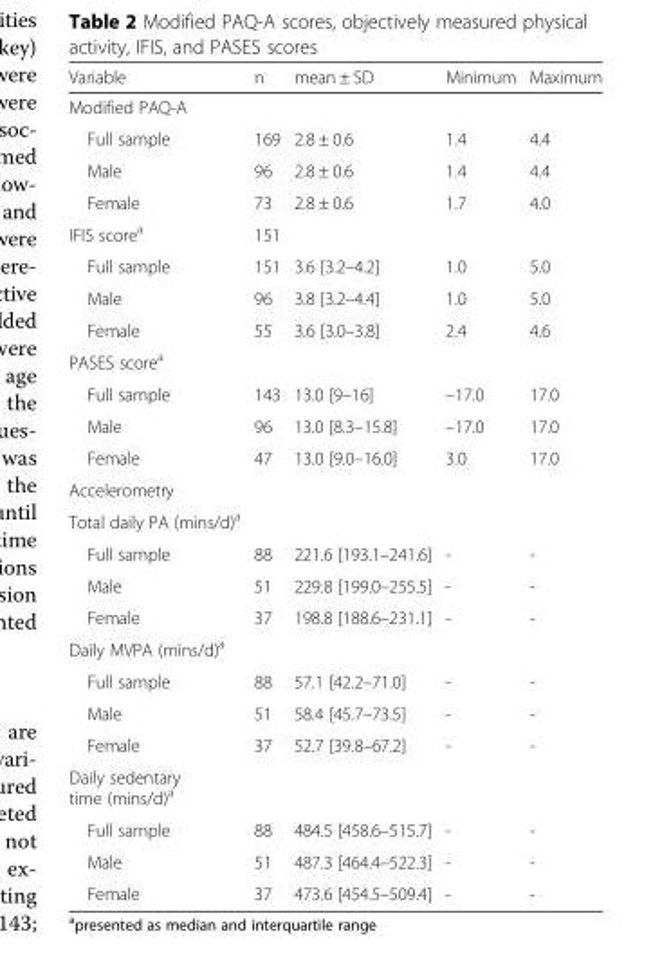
<table><thead><tr><td>Variable</td><td>n</td><td>mean ± SD</td><td>Minimum</td><td>Maximum</td></tr></thead><tbody><tr><td colspan="5">Modified PAQ-A</td></tr><tr><td>Full sample</td><td>169</td><td>2.8 ± 0.6</td><td>1.4</td><td>4.4</td></tr><tr><td>Male</td><td>96</td><td>2.8 ± 0.6</td><td>1.4</td><td>4.4</td></tr><tr><td>Female</td><td>73</td><td>2.8 ± 0.6</td><td>1.7</td><td>4.0</td></tr><tr><td>IFIS score<sup>a</sup></td><td>151</td><td></td><td></td><td></td></tr><tr><td>Full sample</td><td>151</td><td>3.6 [3.2–4.2]</td><td>1.0</td><td>5.0</td></tr><tr><td>Male</td><td>96</td><td>3.8 [3.2–4.4]</td><td>1.0</td><td>5.0</td></tr><tr><td>Female</td><td>55</td><td>3.6 [3.0–3.8]</td><td>2.4</td><td>4.6</td></tr><tr><td colspan="5">PASES score<sup>a</sup></td></tr><tr><td>Full sample</td><td>143</td><td>13.0 [9–16]</td><td>–17.0</td><td>17.0</td></tr><tr><td>Male</td><td>96</td><td>13.0 [8.3–15.8]</td><td>–17.0</td><td>17.0</td></tr><tr><td>Female</td><td>47</td><td>13.0 [9.0–16.0]</td><td>3.0</td><td>17.0</td></tr><tr><td colspan="5">Accelerometry</td></tr><tr><td colspan="5">Total daily PA (mins/d)<sup>a</sup></td></tr><tr><td>Full sample</td><td>88</td><td>221.6 [193.1–241.6]</td><td>-</td><td>-</td></tr><tr><td>Male</td><td>51</td><td>229.8 [199.0–255.5]</td><td>-</td><td>-</td></tr><tr><td>Female</td><td>37</td><td>198.8 [188.6–231.1]</td><td>-</td><td>-</td></tr><tr><td colspan="5">Daily MVPA (mins/d)<sup>a</sup></td></tr><tr><td>Full sample</td><td>88</td><td>57.1 [42.2–71.0]</td><td>-</td><td>-</td></tr><tr><td>Male</td><td>51</td><td>58.4 [45.7–73.5]</td><td>-</td><td>-</td></tr><tr><td>Female</td><td>37</td><td>52.7 [39.8–67.2]</td><td>-</td><td>-</td></tr><tr><td colspan="5">Daily sedentary time (mins/d)<sup>a</sup></td></tr><tr><td>Full sample</td><td>88</td><td>484.5 [458.6–515.7]</td><td>-</td><td>-</td></tr><tr><td>Male</td><td>51</td><td>487.3 [464.4–522.3]</td><td>-</td><td>-</td></tr><tr><td>Female</td><td>37</td><td>473.6 [454.5–509.4]</td><td>-</td><td>-</td></tr></tbody></table>